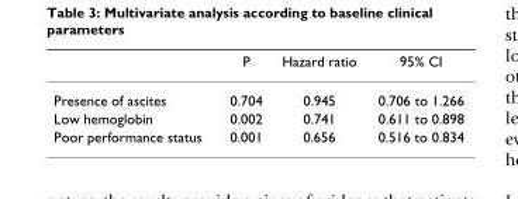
<table><thead><tr><td></td><td>P</td><td>Hazard ratio</td><td>95% CI</td></tr></thead><tbody><tr><td>Presence of ascites</td><td>0.704</td><td>0.945</td><td>0.706 to 1.266</td></tr><tr><td>Low hemoglobin</td><td>0.002</td><td>0.741</td><td>0.611 to 0.898</td></tr><tr><td>Poor performance status</td><td>0.001</td><td>0.656</td><td>0.516 to 0.834</td></tr></tbody></table>